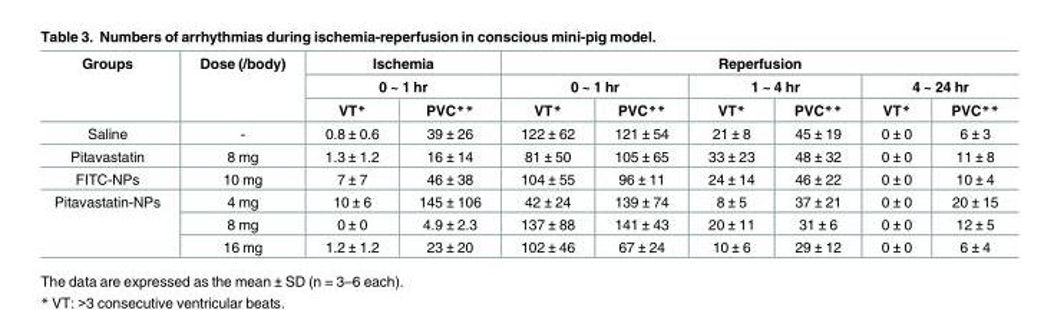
<table><thead><tr><td rowspan="3">Groups</td><td rowspan="3">Dose (/body)</td><td rowspan="2" colspan="2">Ischemia 0 ~ 1 hr</td><td colspan="6">Reperfusion</td></tr><tr><td colspan="2">0 ~ 1 hr</td><td colspan="2">1 ~ 4 hr</td><td colspan="2">4 ~ 24 hr</td></tr><tr><td>VT*</td><td>PVC**</td><td>VT*</td><td>PVC**</td><td>VT*</td><td>PVC**</td><td>VT*</td><td>PVC**</td></tr></thead><tbody><tr><td>Saline</td><td>-</td><td>0.8 ± 0.6</td><td>39 ± 26</td><td>122 ± 62</td><td>121 ± 54</td><td>21 ± 8</td><td>45 ± 19</td><td>0 ± 0</td><td>6 ± 3</td></tr><tr><td>Pitavastatin</td><td>8 mg</td><td>1.3 ± 1.2</td><td>16 ± 14</td><td>81 ± 50</td><td>105 ± 65</td><td>33 ± 23</td><td>48 ± 32</td><td>0 ± 0</td><td>11 ± 8</td></tr><tr><td>FITC-NPs</td><td>10 mg</td><td>7 ± 7</td><td>46 ± 38</td><td>104 ± 55</td><td>96 ± 11</td><td>24 ± 14</td><td>46 ± 22</td><td>0 ± 0</td><td>10 ± 4</td></tr><tr><td rowspan="3">Pitavastatin-NPs</td><td>4 mg</td><td>10 ± 6</td><td>145 ± 106</td><td>42 ± 24</td><td>139 ± 74</td><td>8 ± 5</td><td>37 ± 21</td><td>0 ± 0</td><td>20 ± 15</td></tr><tr><td>8 mg</td><td>0 ± 0</td><td>4.9 ± 2.3</td><td>137 ± 88</td><td>141 ± 43</td><td>20 ± 11</td><td>31 ± 6</td><td>0 ± 0</td><td>12 ± 5</td></tr><tr><td>16 mg</td><td>1.2 ± 1.2</td><td>23 ± 20</td><td>102 ± 46</td><td>67 ± 24</td><td>10 ± 6</td><td>29 ± 12</td><td>0 ± 0</td><td>6 ± 4</td></tr></tbody></table>